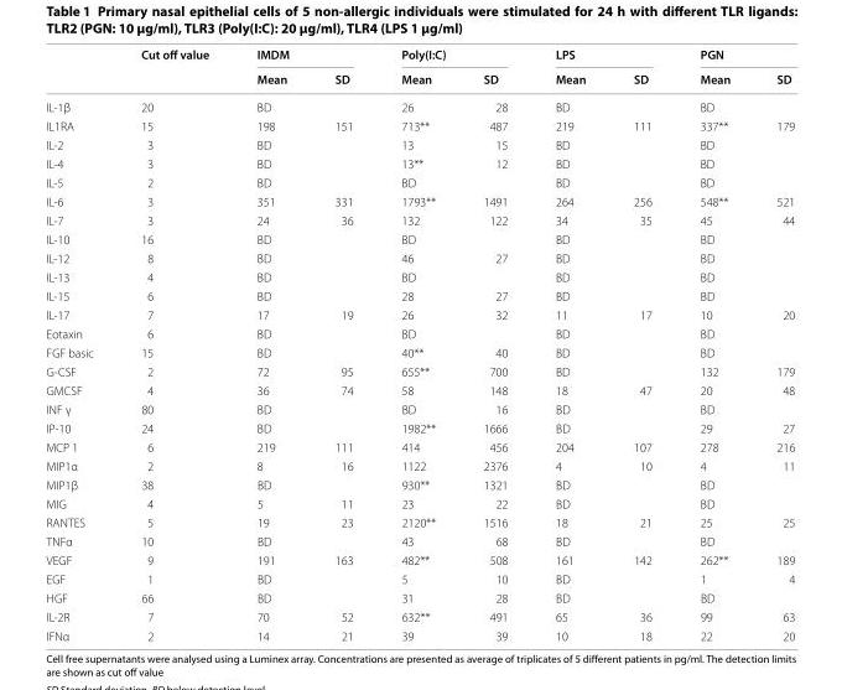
<table><thead><tr><td rowspan="2"></td><td rowspan="2">Cut off value</td><td colspan="2">IMDM</td><td colspan="2">Poly(I:C)</td><td colspan="2">LPS</td><td colspan="2">PGN</td></tr><tr><td>Mean</td><td>SD</td><td>Mean</td><td>SD</td><td>Mean</td><td>SD</td><td>Mean</td><td>SD</td></tr></thead><tbody><tr><td>IL-1β</td><td>20</td><td>BD</td><td></td><td>26</td><td>28</td><td>BD</td><td></td><td>BD</td><td></td></tr><tr><td>IL1RA</td><td>15</td><td>198</td><td>151</td><td>713**</td><td>487</td><td>219</td><td>111</td><td>337**</td><td>179</td></tr><tr><td>IL-2</td><td>3</td><td>BD</td><td></td><td>13</td><td>15</td><td>BD</td><td></td><td>BD</td><td></td></tr><tr><td>IL-4</td><td>3</td><td>BD</td><td></td><td>13**</td><td>12</td><td>BD</td><td></td><td>BD</td><td></td></tr><tr><td>IL-5</td><td>2</td><td>BD</td><td></td><td>BD</td><td></td><td>BD</td><td></td><td>BD</td><td></td></tr><tr><td>IL-6</td><td>3</td><td>351</td><td>331</td><td>1793**</td><td>1491</td><td>264</td><td>256</td><td>548**</td><td>521</td></tr><tr><td>IL-7</td><td>3</td><td>24</td><td>36</td><td>132</td><td>122</td><td>34</td><td>35</td><td>45</td><td>44</td></tr><tr><td>IL-10</td><td>16</td><td>BD</td><td></td><td>BD</td><td></td><td>BD</td><td></td><td>BD</td><td></td></tr><tr><td>IL-12</td><td>8</td><td>BD</td><td></td><td>46</td><td>27</td><td>BD</td><td></td><td>BD</td><td></td></tr><tr><td>IL-13</td><td>4</td><td>BD</td><td></td><td>BD</td><td></td><td>BD</td><td></td><td>BD</td><td></td></tr><tr><td>IL-15</td><td>6</td><td>BD</td><td></td><td>28</td><td>27</td><td>BD</td><td></td><td>BD</td><td></td></tr><tr><td>IL-17</td><td>7</td><td>17</td><td>19</td><td>26</td><td>32</td><td>11</td><td>17</td><td>10</td><td>20</td></tr><tr><td>Eotaxin</td><td>6</td><td>BD</td><td></td><td>BD</td><td></td><td>BD</td><td></td><td>BD</td><td></td></tr><tr><td>FGF basic</td><td>15</td><td>BD</td><td></td><td>40**</td><td>40</td><td>BD</td><td></td><td>BD</td><td></td></tr><tr><td>G-CSF</td><td>2</td><td>72</td><td>95</td><td>655**</td><td>700</td><td>BD</td><td></td><td>132</td><td>179</td></tr><tr><td>GMCSF</td><td>4</td><td>36</td><td>74</td><td>58</td><td>148</td><td>18</td><td>47</td><td>20</td><td>48</td></tr><tr><td>INF γ</td><td>80</td><td>BD</td><td></td><td>BD</td><td>16</td><td>BD</td><td></td><td>BD</td><td></td></tr><tr><td>IP-10</td><td>24</td><td>BD</td><td></td><td>1982**</td><td>1666</td><td>BD</td><td></td><td>29</td><td>27</td></tr><tr><td>MCP 1</td><td>6</td><td>219</td><td>111</td><td>414</td><td>456</td><td>204</td><td>107</td><td>278</td><td>216</td></tr><tr><td>MIP1α</td><td>2</td><td>8</td><td>16</td><td>1122</td><td>2376</td><td>4</td><td>10</td><td>4</td><td>11</td></tr><tr><td>MIP1β</td><td>38</td><td>BD</td><td></td><td>930**</td><td>1321</td><td>BD</td><td></td><td>BD</td><td></td></tr><tr><td>MIG</td><td>4</td><td>5</td><td>11</td><td>23</td><td>22</td><td>BD</td><td></td><td>BD</td><td></td></tr><tr><td>RANTES</td><td>5</td><td>19</td><td>23</td><td>2120**</td><td>1516</td><td>18</td><td>21</td><td>25</td><td>25</td></tr><tr><td>TNFα</td><td>10</td><td>BD</td><td></td><td>43</td><td>68</td><td>BD</td><td></td><td>BD</td><td></td></tr><tr><td>VEGF</td><td>9</td><td>191</td><td>163</td><td>482**</td><td>508</td><td>161</td><td>142</td><td>262**</td><td>189</td></tr><tr><td>EGF</td><td>1</td><td>BD</td><td></td><td>5</td><td>10</td><td>BD</td><td></td><td>1</td><td>4</td></tr><tr><td>HGF</td><td>66</td><td>BD</td><td></td><td>31</td><td>28</td><td>BD</td><td></td><td>BD</td><td></td></tr><tr><td>IL-2R</td><td>7</td><td>70</td><td>52</td><td>632**</td><td>491</td><td>65</td><td>36</td><td>99</td><td>63</td></tr><tr><td>IFNα</td><td>2</td><td>14</td><td>21</td><td>39</td><td>39</td><td>10</td><td>18</td><td>22</td><td>20</td></tr></tbody></table>